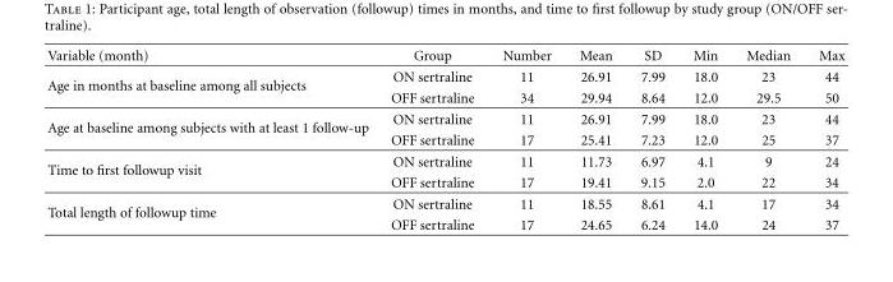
<table><thead><tr><td>Variable (month)</td><td>Group</td><td>Number</td><td>Mean</td><td>SD</td><td>Min</td><td>Median</td><td>Max</td></tr></thead><tbody><tr><td rowspan="2">Age in months at baseline among all subjects</td><td>ON sertraline</td><td>11</td><td>26.91</td><td>7.99</td><td>18.0</td><td>23</td><td>44</td></tr><tr><td>OFF sertraline</td><td>34</td><td>29.94</td><td>8.64</td><td>12.0</td><td>29.5</td><td>50</td></tr><tr><td rowspan="2">Age at baseline among subjects with at least 1 follow-up</td><td>ON sertraline</td><td>11</td><td>26.91</td><td>7.99</td><td>18.0</td><td>23</td><td>44</td></tr><tr><td>OFF sertraline</td><td>17</td><td>25.41</td><td>7.23</td><td>12.0</td><td>25</td><td>37</td></tr><tr><td rowspan="2">Time to first followup visit</td><td>ON sertraline</td><td>11</td><td>11.73</td><td>6.97</td><td>4.1</td><td>9</td><td>24</td></tr><tr><td>OFF sertraline</td><td>17</td><td>19.41</td><td>9.15</td><td>2.0</td><td>22</td><td>34</td></tr><tr><td rowspan="2">Total length of followup time</td><td>ON sertraline</td><td>11</td><td>18.55</td><td>8.61</td><td>4.1</td><td>17</td><td>34</td></tr><tr><td>OFF sertraline</td><td>17</td><td>24.65</td><td>6.24</td><td>14.0</td><td>24</td><td>37</td></tr></tbody></table>